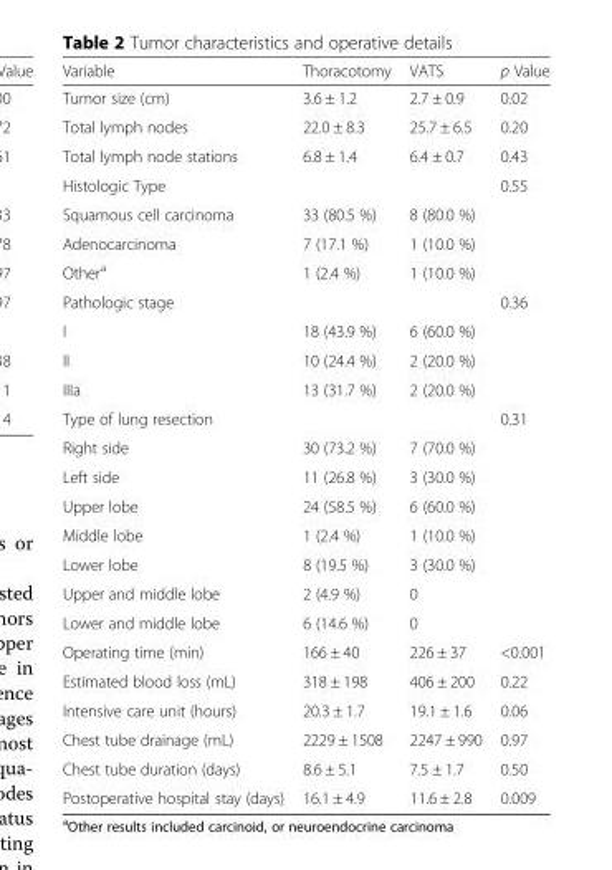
<table><thead><tr><td>Variable</td><td>Thoracotomy</td><td>VATS</td><td>p Value</td></tr></thead><tbody><tr><td>Tumor size (cm)</td><td>3.6 ± 1.2</td><td>2.7 ± 0.9</td><td>0.02</td></tr><tr><td>Total lymph nodes</td><td>22.0 ± 8.3</td><td>25.7 ± 6.5</td><td>0.20</td></tr><tr><td>Total lymph node stations</td><td>6.8 ± 1.4</td><td>6.4 ± 0.7</td><td>0.43</td></tr><tr><td>Histologic Type</td><td></td><td></td><td>0.55</td></tr><tr><td>Squamous cell carcinoma</td><td>33 (80.5 %)</td><td>8 (80.0 %)</td><td></td></tr><tr><td>Adenocarcinoma</td><td>7 (17.1 %)</td><td>1 (10.0 %)</td><td></td></tr><tr><td>Other<sup>a</sup></td><td>1 (2.4 %)</td><td>1 (10.0 %)</td><td></td></tr><tr><td>Pathologic stage</td><td></td><td></td><td>0.36</td></tr><tr><td>I</td><td>18 (43.9 %)</td><td>6 (60.0 %)</td><td></td></tr><tr><td>II</td><td>10 (24.4 %)</td><td>2 (20.0 %)</td><td></td></tr><tr><td>IIIa</td><td>13 (31.7 %)</td><td>2 (20.0 %)</td><td></td></tr><tr><td>Type of lung resection</td><td></td><td></td><td>0.31</td></tr><tr><td>Right side</td><td>30 (73.2 %)</td><td>7 (70.0 %)</td><td></td></tr><tr><td>Left side</td><td>11 (26.8 %)</td><td>3 (30.0 %)</td><td></td></tr><tr><td>Upper lobe</td><td>24 (58.5 %)</td><td>6 (60.0 %)</td><td></td></tr><tr><td>Middle lobe</td><td>1 (2.4 %)</td><td>1 (10.0 %)</td><td></td></tr><tr><td>Lower lobe</td><td>8 (19.5 %)</td><td>3 (30.0 %)</td><td></td></tr><tr><td>Upper and middle lobe</td><td>2 (4.9 %)</td><td>0</td><td></td></tr><tr><td>Lower and middle lobe</td><td>6 (14.6 %)</td><td>0</td><td></td></tr><tr><td>Operating time (min)</td><td>166 ± 40</td><td>226 ± 37</td><td>&lt;0.001</td></tr><tr><td>Estimated blood loss (mL)</td><td>318 ± 198</td><td>406 ± 200</td><td>0.22</td></tr><tr><td>Intensive care unit (hours)</td><td>20.3 ± 1.7</td><td>19.1 ± 1.6</td><td>0.06</td></tr><tr><td>Chest tube drainage (mL)</td><td>2229 ± 1508</td><td>2247 ± 990</td><td>0.97</td></tr><tr><td>Chest tube duration (days)</td><td>8.6 ± 5.1</td><td>7.5 ± 1.7</td><td>0.50</td></tr><tr><td>Postoperative hospital stay (days)</td><td>16.1 ± 4.9</td><td>11.6 ± 2.8</td><td>0.009</td></tr></tbody></table>